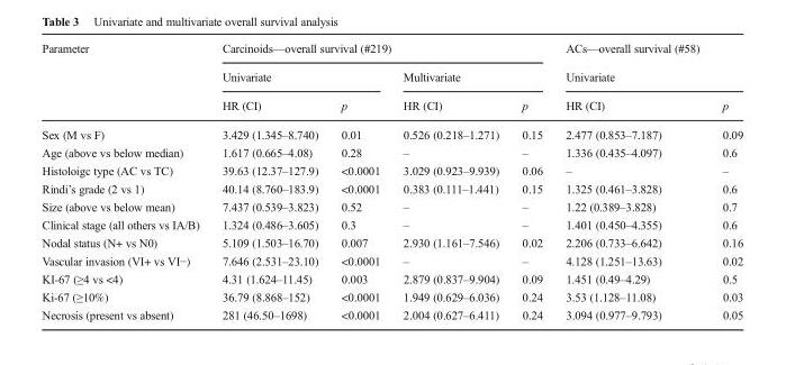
<table><thead><tr><td rowspan="3">Parameter</td><td colspan="4">Carcinoids—overall survival (#219)</td><td>ACs—overall survival (#58)</td><td></td></tr><tr><td colspan="2">Univariate</td><td colspan="2">Multivariate</td><td colspan="2">Univariate</td></tr><tr><td>HR (CI)</td><td>p</td><td>HR (CI)</td><td>p</td><td>HR (CI)</td><td>p</td></tr></thead><tbody><tr><td>Sex (M vs F)</td><td>3.429 (1.345–8.740)</td><td>0.01</td><td>0.526 (0.218–1.271)</td><td>0.15</td><td>2.477 (0.853–7.187)</td><td>0.09</td></tr><tr><td>Age (above vs below median)</td><td>1.617 (0.665–4.08)</td><td>0.28</td><td>–</td><td>–</td><td>1.336 (0.435–4.097)</td><td>0.6</td></tr><tr><td>Histoloigc type (AC vs TC)</td><td>39.63 (12.37–127.9)</td><td>&lt;0.0001</td><td>3.029 (0.923–9.939)</td><td>0.06</td><td>–</td><td>–</td></tr><tr><td>Rindi’s grade (2 vs 1)</td><td>40.14 (8.760–183.9)</td><td>&lt;0.0001</td><td>0.383 (0.111–1.441)</td><td>0.15</td><td>1.325 (0.461–3.828)</td><td>0.6</td></tr><tr><td>Size (above vs below mean)</td><td>7.437 (0.539–3.823)</td><td>0.52</td><td>–</td><td>–</td><td>1.22 (0.389–3.828)</td><td>0.7</td></tr><tr><td>Clinical stage (all others vs IA/B)</td><td>1.324 (0.486–3.605)</td><td>0.3</td><td>–</td><td>–</td><td>1.401 (0.450–4.355)</td><td>0.6</td></tr><tr><td>Nodal status (N+ vs N0)</td><td>5.109 (1.503–16.70)</td><td>0.007</td><td>2.930 (1.161–7.546)</td><td>0.02</td><td>2.206 (0.733–6.642)</td><td>0.16</td></tr><tr><td>Vascular invasion (VI+ vs VI−)</td><td>7.646 (2.531–23.10)</td><td>&lt;0.0001</td><td>–</td><td>–</td><td>4.128 (1.251–13.63)</td><td>0.02</td></tr><tr><td>KI-67 (≥4 vs &lt;4)</td><td>4.31 (1.624–11.45)</td><td>0.003</td><td>2.879 (0.837–9.904)</td><td>0.09</td><td>1.451 (0.49–4.29)</td><td>0.5</td></tr><tr><td>Ki-67 (≥10%)</td><td>36.79 (8.868–152)</td><td>&lt;0.0001</td><td>1.949 (0.629–6.036)</td><td>0.24</td><td>3.53 (1.128–11.08)</td><td>0.03</td></tr><tr><td>Necrosis (present vs absent)</td><td>281 (46.50–1698)</td><td>&lt;0.0001</td><td>2.004 (0.627–6.411)</td><td>0.24</td><td>3.094 (0.977–9.793)</td><td>0.05</td></tr></tbody></table>